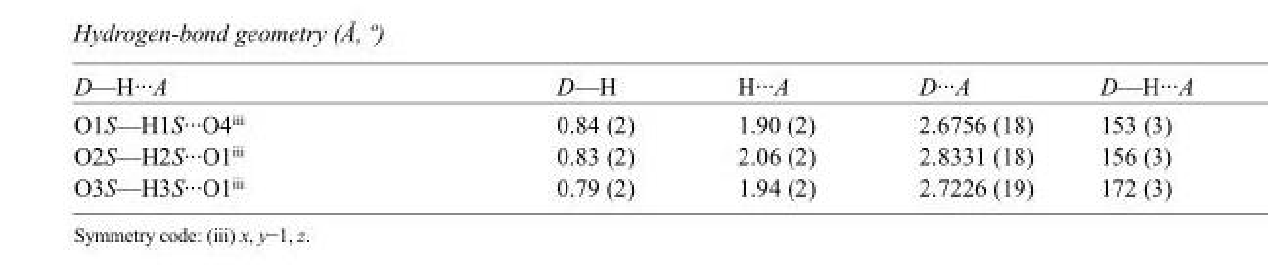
<table><tbody><tr><td>D—H···A</td><td>D—H</td><td>H···A</td><td>D···A</td><td>D—H···A</td></tr><tr><td>O1S—H1S···O4<sup>iii</sup></td><td>0.84 (2)</td><td>1.90 (2)</td><td>2.6756 (18)</td><td>153 (3)</td></tr><tr><td>O2S—H2S···O1<sup>iii</sup></td><td>0.83 (2)</td><td>2.06 (2)</td><td>2.8331 (18)</td><td>156 (3)</td></tr><tr><td>O3S—H3S···O1<sup>iii</sup></td><td>0.79 (2)</td><td>1.94 (2)</td><td>2.7226 (19)</td><td>172 (3)</td></tr></tbody></table>